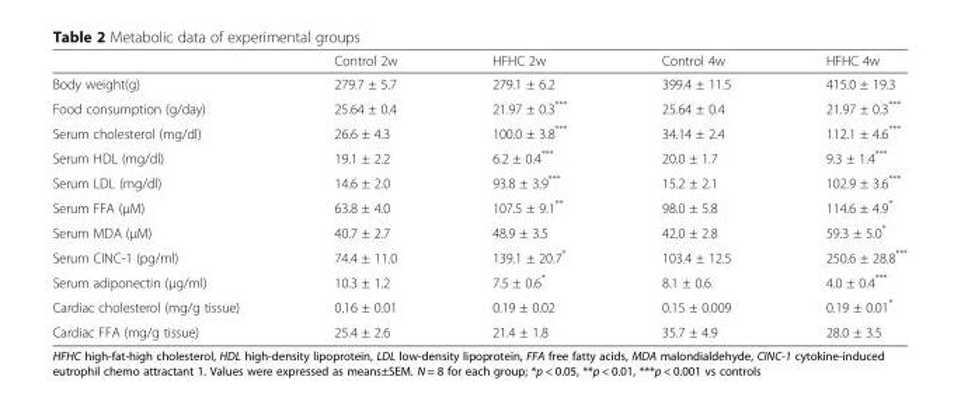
<table><thead><tr><td></td><td>Control 2w</td><td>HFHC 2w</td><td>Control 4w</td><td>HFHC 4w</td></tr></thead><tbody><tr><td>Body weight(g)</td><td>279.7 ± 5.7</td><td>279.1 ± 6.2</td><td>399.4 ± 11.5</td><td>415.0 ± 19.3</td></tr><tr><td>Food consumption (g/day)</td><td>25.64 ± 0.4</td><td>21.97 ± 0.3***</td><td>25.64 ± 0.4</td><td>21.97 ± 0.3***</td></tr><tr><td>Serum cholesterol (mg/dl)</td><td>26.6 ± 4.3</td><td>100.0 ± 3.8***</td><td>34.14 ± 2.4</td><td>112.1 ± 4.6***</td></tr><tr><td>Serum HDL (mg/dl)</td><td>19.1 ± 2.2</td><td>6.2 ± 0.4***</td><td>20.0 ± 1.7</td><td>9.3 ± 1.4***</td></tr><tr><td>Serum LDL (mg/dl)</td><td>14.6 ± 2.0</td><td>93.8 ± 3.9***</td><td>15.2 ± 2.1</td><td>102.9 ± 3.6***</td></tr><tr><td>Serum FFA (μM)</td><td>63.8 ± 4.0</td><td>107.5 ± 9.1**</td><td>98.0 ± 5.8</td><td>114.6 ± 4.9*</td></tr><tr><td>Serum MDA (μM)</td><td>40.7 ± 2.7</td><td>48.9 ± 3.5</td><td>42.0 ± 2.8</td><td>59.3 ± 5.0*</td></tr><tr><td>Serum CINC-1 (pg/ml)</td><td>74.4 ± 11.0</td><td>139.1 ± 20.7*</td><td>103.4 ± 12.5</td><td>250.6 ± 28.8***</td></tr><tr><td>Serum adiponectin (μg/ml)</td><td>10.3 ± 1.2</td><td>7.5 ± 0.6*</td><td>8.1 ± 0.6</td><td>4.0 ± 0.4***</td></tr><tr><td>Cardiac cholesterol (mg/g tissue)</td><td>0.16 ± 0.01</td><td>0.19 ± 0.02</td><td>0.15 ± 0.009</td><td>0.19 ± 0.01*</td></tr><tr><td>Cardiac FFA (mg/g tissue)</td><td>25.4 ± 2.6</td><td>21.4 ± 1.8</td><td>35.7 ± 4.9</td><td>28.0 ± 3.5</td></tr></tbody></table>